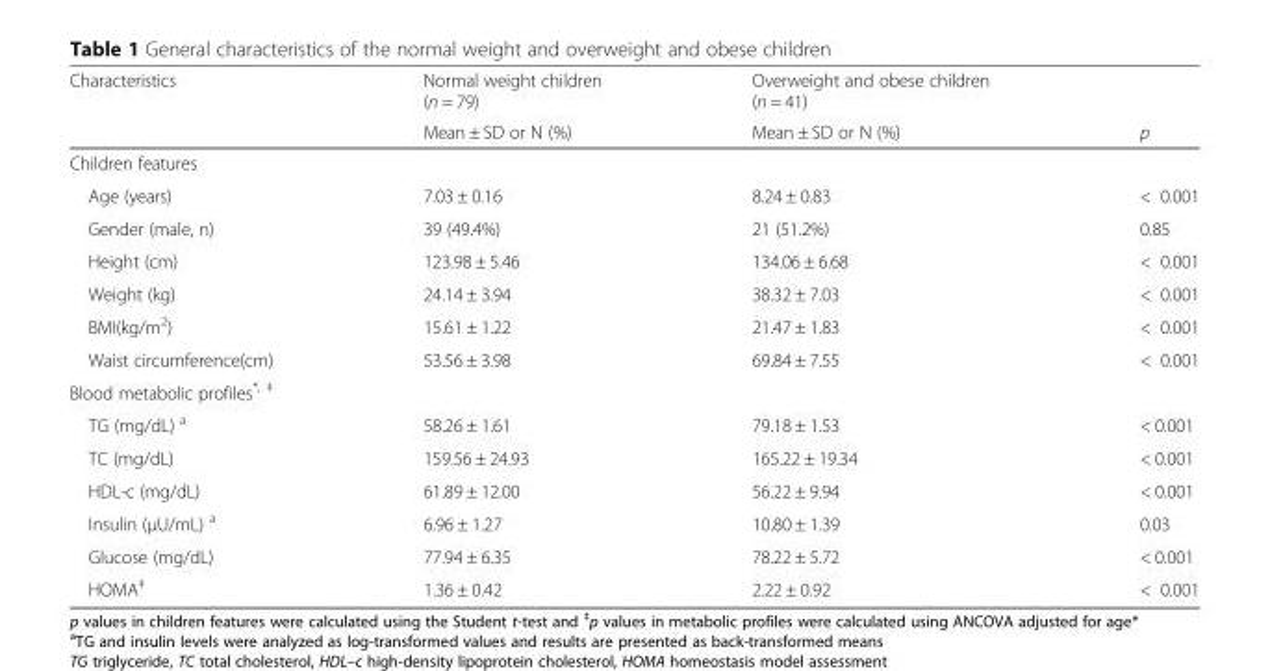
<table><thead><tr><td rowspan="2">Characteristics</td><td rowspan="2">Normal weight children (n = 79) Mean ± SD or N (%)</td><td rowspan="2">Overweight and obese children (n = 41) Mean ± SD or N (%)</td><td rowspan="2">p</td></tr><tr></tr></thead><tbody><tr><td colspan="4">Children features</td></tr><tr><td>Age (years)</td><td>7.03 ± 0.16</td><td>8.24 ± 0.83</td><td>&lt; 0.001</td></tr><tr><td>Gender (male, n)</td><td>39 (49.4%)</td><td>21 (51.2%)</td><td>0.85</td></tr><tr><td>Height (cm)</td><td>123.98 ± 5.46</td><td>134.06 ± 6.68</td><td>&lt; 0.001</td></tr><tr><td>Weight (kg)</td><td>24.14 ± 3.94</td><td>38.32 ± 7.03</td><td>&lt; 0.001</td></tr><tr><td>BMI(kg/m<sup>2</sup>)</td><td>15.61 ± 1.22</td><td>21.47 ± 1.83</td><td>&lt; 0.001</td></tr><tr><td>Waist circumference(cm)</td><td>53.56 ± 3.98</td><td>69.84 ± 7.55</td><td>&lt; 0.001</td></tr><tr><td colspan="4">Blood metabolic profiles<sup>*, ‡</sup></td></tr><tr><td>TG (mg/dL) <sup>a</sup></td><td>58.26 ± 1.61</td><td>79.18 ± 1.53</td><td>&lt; 0.001</td></tr><tr><td>TC (mg/dL)</td><td>159.56 ± 24.93</td><td>165.22 ± 19.34</td><td>&lt; 0.001</td></tr><tr><td>HDL-c (mg/dL)</td><td>61.89 ± 12.00</td><td>56.22 ± 9.94</td><td>&lt; 0.001</td></tr><tr><td>Insulin (μU/mL) <sup>a</sup></td><td>6.96 ± 1.27</td><td>10.80 ± 1.39</td><td>0.03</td></tr><tr><td>Glucose (mg/dL)</td><td>77.94 ± 6.35</td><td>78.22 ± 5.72</td><td>&lt; 0.001</td></tr><tr><td>HOMA<sup>‡</sup></td><td>1.36 ± 0.42</td><td>2.22 ± 0.92</td><td>&lt; 0.001</td></tr></tbody></table>